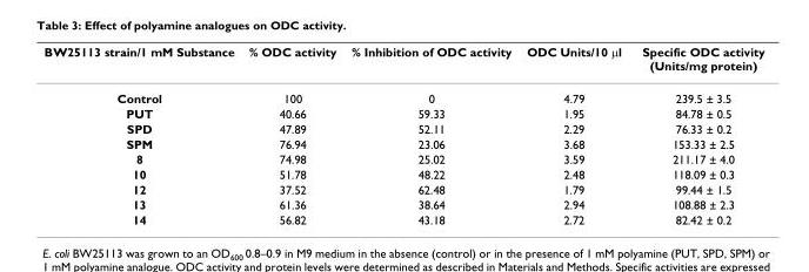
<table><thead><tr><td>BW25113 strain/1 mM Substance</td><td>% ODC activity</td><td>% Inhibition of ODC activity</td><td>ODC Units/10 µl</td><td>Specific ODC activity (Units/mg protein)</td></tr></thead><tbody><tr><td>Control</td><td>100</td><td>0</td><td>4.79</td><td>239.5 ± 3.5</td></tr><tr><td>PUT</td><td>40.66</td><td>59.33</td><td>1.95</td><td>84.78 ± 0.5</td></tr><tr><td>SPD</td><td>47.89</td><td>52.11</td><td>2.29</td><td>76.33 ± 0.2</td></tr><tr><td>SPM</td><td>76.94</td><td>23.06</td><td>3.68</td><td>153.33 ± 2.5</td></tr><tr><td>8</td><td>74.98</td><td>25.02</td><td>3.59</td><td>211.17 ± 4.0</td></tr><tr><td>10</td><td>51.78</td><td>48.22</td><td>2.48</td><td>118.09 ± 0.3</td></tr><tr><td>12</td><td>37.52</td><td>62.48</td><td>1.79</td><td>99.44 ± 1.5</td></tr><tr><td>13</td><td>61.36</td><td>38.64</td><td>2.94</td><td>108.88 ± 2.3</td></tr><tr><td>14</td><td>56.82</td><td>43.18</td><td>2.72</td><td>82.42 ± 0.2</td></tr></tbody></table>